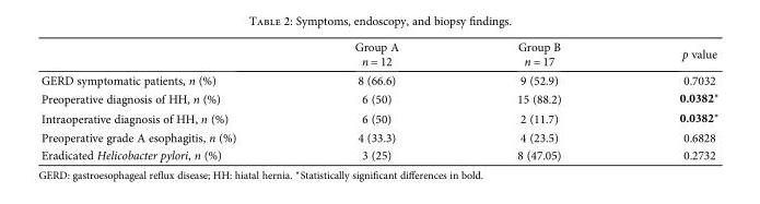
<table><thead><tr><td></td><td>Group A n = 12</td><td>Group B n = 17</td><td>p value</td></tr></thead><tbody><tr><td>GERD symptomatic patients, n (%)</td><td>8 (66.6)</td><td>9 (52.9)</td><td>0.7032</td></tr><tr><td>Preoperative diagnosis of HH, n (%)</td><td>6 (50)</td><td>15 (88.2)</td><td>0.0382∗</td></tr><tr><td>Intraoperative diagnosis of HH, n (%)</td><td>6 (50)</td><td>2 (11.7)</td><td>0.0382∗</td></tr><tr><td>Preoperative grade A esophagitis, n (%)</td><td>4 (33.3)</td><td>4 (23.5)</td><td>0.6828</td></tr><tr><td>Eradicated Helicobacter pylori, n (%)</td><td>3 (25)</td><td>8 (47.05)</td><td>0.2732</td></tr></tbody></table>